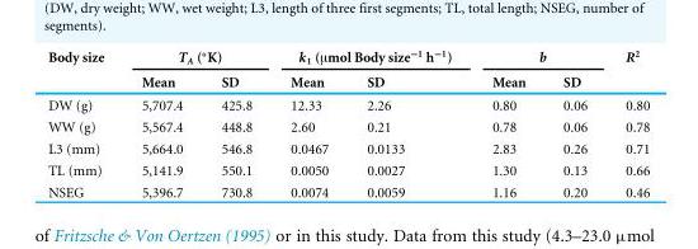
<table><thead><tr><td rowspan="2">Body size</td><td colspan="2">TA (◦K)</td><td colspan="2">k<sub>1</sub> (µmol Body size<sup>−1</sup> h<sup>−1</sup>)</td><td colspan="2">b</td><td rowspan="2">R<sup>2</sup></td></tr><tr><td>Mean</td><td>SD</td><td>Mean</td><td>SD</td><td>Mean</td><td>SD</td></tr></thead><tbody><tr><td>DW (g)</td><td>5,707.4</td><td>425.8</td><td>12.33</td><td>2.26</td><td>0.80</td><td>0.06</td><td>0.80</td></tr><tr><td>WW (g)</td><td>5,567.4</td><td>448.8</td><td>2.60</td><td>0.21</td><td>0.78</td><td>0.06</td><td>0.78</td></tr><tr><td>L3 (mm)</td><td>5,664.0</td><td>546.8</td><td>0.0467</td><td>0.0133</td><td>2.83</td><td>0.26</td><td>0.71</td></tr><tr><td>TL (mm)</td><td>5,141.9</td><td>550.1</td><td>0.0050</td><td>0.0027</td><td>1.30</td><td>0.13</td><td>0.66</td></tr><tr><td>NSEG</td><td>5,396.7</td><td>730.8</td><td>0.0074</td><td>0.0059</td><td>1.16</td><td>0.20</td><td>0.46</td></tr></tbody></table>